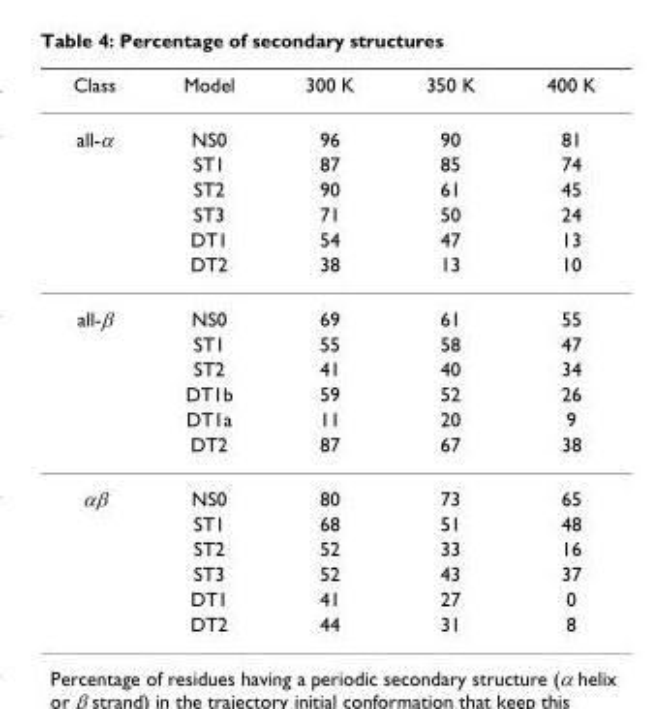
<table><thead><tr><td>Class</td><td>Model</td><td>300 K</td><td>350 K</td><td>400 K</td></tr></thead><tbody><tr><td rowspan="6">all-α</td><td>NS0</td><td>96</td><td>90</td><td>81</td></tr><tr><td>ST1</td><td>87</td><td>85</td><td>74</td></tr><tr><td>ST2</td><td>90</td><td>61</td><td>45</td></tr><tr><td>ST3</td><td>71</td><td>50</td><td>24</td></tr><tr><td>DT1</td><td>54</td><td>47</td><td>13</td></tr><tr><td>DT2</td><td>38</td><td>13</td><td>10</td></tr><tr><td rowspan="6">all-β</td><td>NS0</td><td>69</td><td>61</td><td>55</td></tr><tr><td>ST1</td><td>55</td><td>58</td><td>47</td></tr><tr><td>ST2</td><td>41</td><td>40</td><td>34</td></tr><tr><td>DT1b</td><td>59</td><td>52</td><td>26</td></tr><tr><td>DT1a</td><td>11</td><td>20</td><td>9</td></tr><tr><td>DT2</td><td>87</td><td>67</td><td>38</td></tr><tr><td rowspan="6">αβ</td><td>NS0</td><td>80</td><td>73</td><td>65</td></tr><tr><td>ST1</td><td>68</td><td>51</td><td>48</td></tr><tr><td>ST2</td><td>52</td><td>33</td><td>16</td></tr><tr><td>ST3</td><td>52</td><td>43</td><td>37</td></tr><tr><td>DT1</td><td>41</td><td>27</td><td>0</td></tr><tr><td>DT2</td><td>44</td><td>31</td><td>8</td></tr></tbody></table>